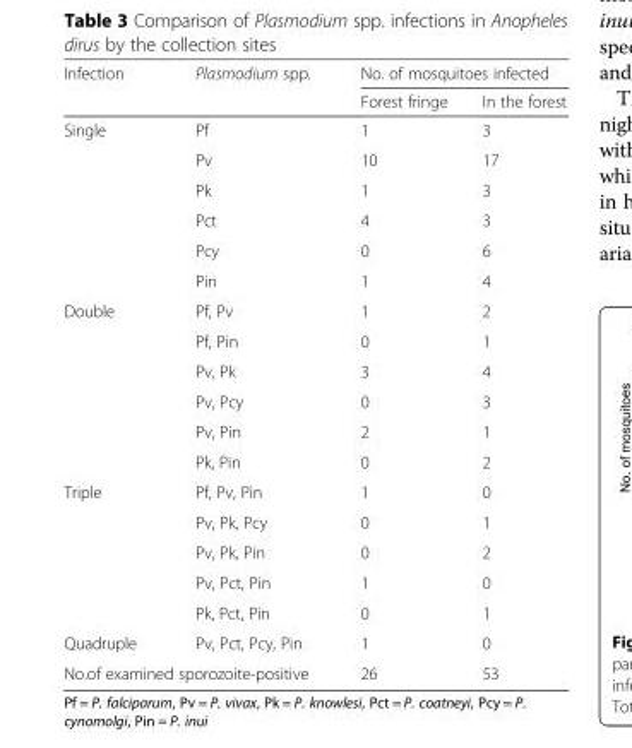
<table><thead><tr><td rowspan="2">Infection</td><td rowspan="2">Plasmodium spp.</td><td colspan="2">No. of mosquitoes infected</td></tr><tr><td>Forest fringe</td><td>In the forest</td></tr></thead><tbody><tr><td rowspan="6">Single</td><td>Pf</td><td>1</td><td>3</td></tr><tr><td>Pv</td><td>10</td><td>17</td></tr><tr><td>Pk</td><td>1</td><td>3</td></tr><tr><td>Pct</td><td>4</td><td>3</td></tr><tr><td>Pcy</td><td>0</td><td>6</td></tr><tr><td>Pin</td><td>1</td><td>4</td></tr><tr><td rowspan="6">Double</td><td>Pf, Pv</td><td>1</td><td>2</td></tr><tr><td>Pf, Pin</td><td>0</td><td>1</td></tr><tr><td>Pv, Pk</td><td>3</td><td>4</td></tr><tr><td>Pv, Pcy</td><td>0</td><td>3</td></tr><tr><td>Pv, Pin</td><td>2</td><td>1</td></tr><tr><td>Pk, Pin</td><td>0</td><td>2</td></tr><tr><td rowspan="5">Triple</td><td>Pf, Pv, Pin</td><td>1</td><td>0</td></tr><tr><td>Pv, Pk, Pcy</td><td>0</td><td>1</td></tr><tr><td>Pv, Pk, Pin</td><td>0</td><td>2</td></tr><tr><td>Pv, Pct, Pin</td><td>1</td><td>0</td></tr><tr><td>Pk, Pct, Pin</td><td>0</td><td>1</td></tr><tr><td>Quadruple</td><td>Pv, Pct, Pcy, Pin</td><td>1</td><td>0</td></tr><tr><td colspan="2">No.of examined sporozoite-positive</td><td>26</td><td>53</td></tr></tbody></table>